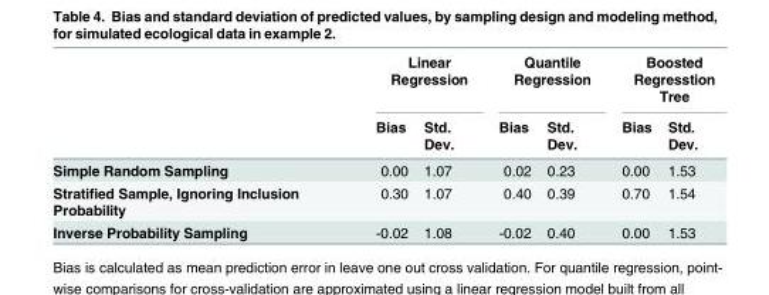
<table><thead><tr><td rowspan="2"></td><td colspan="2">Linear Regression</td><td colspan="2">Quantile Regression</td><td colspan="2">Boosted Regresstion Tree</td></tr><tr><td>Bias</td><td>Std. Dev.</td><td>Bias</td><td>Std. Dev.</td><td>Bias</td><td>Std. Dev.</td></tr></thead><tbody><tr><td>Simple Random Sampling</td><td>0.00</td><td>1.07</td><td>0.02</td><td>0.23</td><td>0.00</td><td>1.53</td></tr><tr><td>Stratified Sample, Ignoring Inclusion Probability</td><td>0.30</td><td>1.07</td><td>0.40</td><td>0.39</td><td>0.70</td><td>1.54</td></tr><tr><td>Inverse Probability Sampling</td><td>-0.02</td><td>1.08</td><td>-0.02</td><td>0.40</td><td>0.00</td><td>1.53</td></tr></tbody></table>